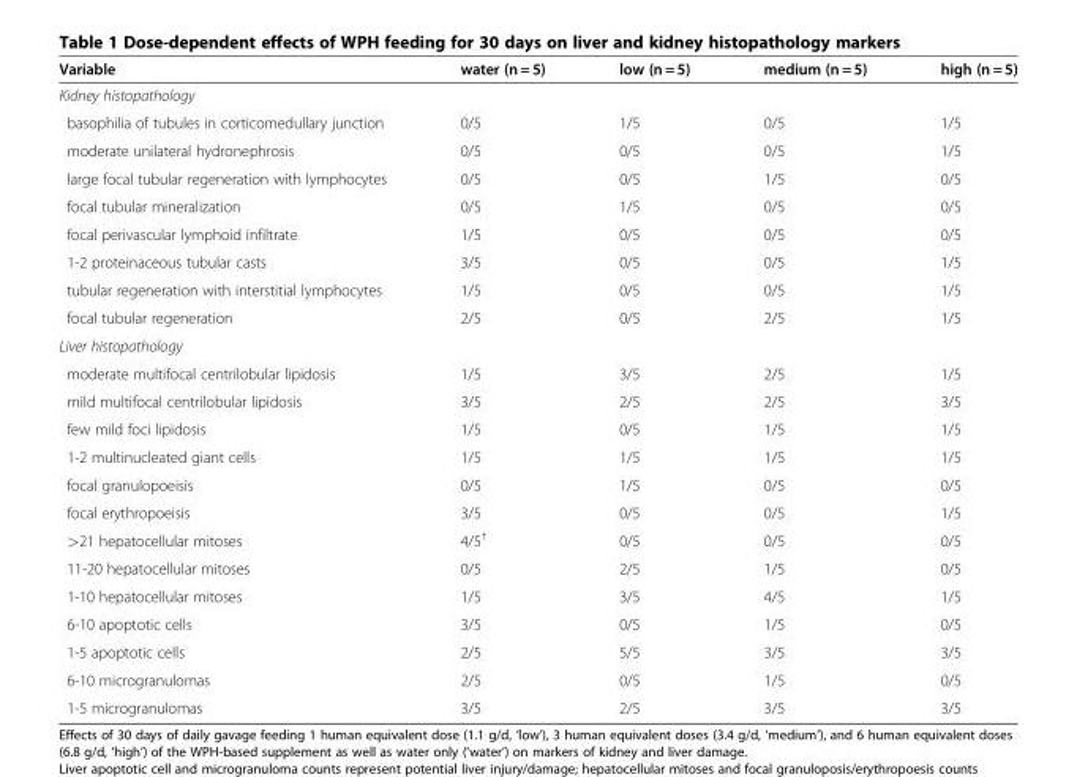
<table><thead><tr><td>Variable</td><td>water (n = 5)</td><td>low (n = 5)</td><td>medium (n = 5)</td><td>high (n = 5)</td></tr></thead><tbody><tr><td colspan="5">Kidney histopathology</td></tr><tr><td>basophilia of tubules in corticomedullary junction</td><td>0/5</td><td>1/5</td><td>0/5</td><td>1/5</td></tr><tr><td>moderate unilateral hydronephrosis</td><td>0/5</td><td>0/5</td><td>0/5</td><td>1/5</td></tr><tr><td>large focal tubular regeneration with lymphocytes</td><td>0/5</td><td>0/5</td><td>1/5</td><td>0/5</td></tr><tr><td>focal tubular mineralization</td><td>0/5</td><td>1/5</td><td>0/5</td><td>0/5</td></tr><tr><td>focal perivascular lymphoid infiltrate</td><td>1/5</td><td>0/5</td><td>0/5</td><td>0/5</td></tr><tr><td>1-2 proteinaceous tubular casts</td><td>3/5</td><td>0/5</td><td>0/5</td><td>1/5</td></tr><tr><td>tubular regeneration with interstitial lymphocytes</td><td>1/5</td><td>0/5</td><td>0/5</td><td>1/5</td></tr><tr><td>focal tubular regeneration</td><td>2/5</td><td>0/5</td><td>2/5</td><td>1/5</td></tr><tr><td colspan="5">Liver histopathology</td></tr><tr><td>moderate multifocal centrilobular lipidosis</td><td>1/5</td><td>3/5</td><td>2/5</td><td>1/5</td></tr><tr><td>mild multifocal centrilobular lipidosis</td><td>3/5</td><td>2/5</td><td>2/5</td><td>3/5</td></tr><tr><td>few mild foci lipidosis</td><td>1/5</td><td>0/5</td><td>1/5</td><td>1/5</td></tr><tr><td>1-2 multinucleated giant cells</td><td>1/5</td><td>1/5</td><td>1/5</td><td>1/5</td></tr><tr><td>focal granulopoeisis</td><td>0/5</td><td>1/5</td><td>0/5</td><td>0/5</td></tr><tr><td>focal erythropoeisis</td><td>3/5</td><td>0/5</td><td>0/5</td><td>1/5</td></tr><tr><td>&gt;21 hepatocellular mitoses</td><td>4/5<sup>†</sup></td><td>0/5</td><td>0/5</td><td>0/5</td></tr><tr><td>11-20 hepatocellular mitoses</td><td>0/5</td><td>2/5</td><td>1/5</td><td>0/5</td></tr><tr><td>1-10 hepatocellular mitoses</td><td>1/5</td><td>3/5</td><td>4/5</td><td>1/5</td></tr><tr><td>6-10 apoptotic cells</td><td>3/5</td><td>0/5</td><td>1/5</td><td>0/5</td></tr><tr><td>1-5 apoptotic cells</td><td>2/5</td><td>5/5</td><td>3/5</td><td>3/5</td></tr><tr><td>6-10 microgranulomas</td><td>2/5</td><td>0/5</td><td>1/5</td><td>0/5</td></tr><tr><td>1-5 microgranulomas</td><td>3/5</td><td>2/5</td><td>3/5</td><td>3/5</td></tr></tbody></table>